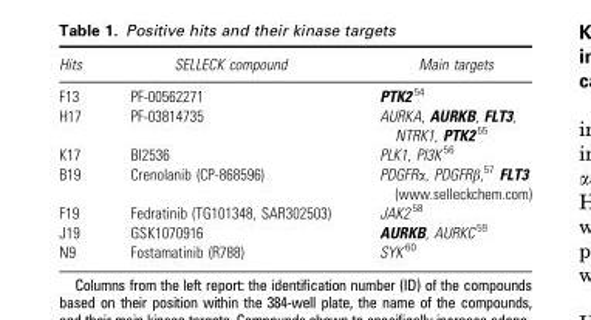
<table><thead><tr><td>Hits</td><td>SELLECK compound</td><td>Main targets</td></tr></thead><tbody><tr><td>F13</td><td>PF-00562271</td><td>PTK2 <sup>54</sup></td></tr><tr><td>H17</td><td>PF-03814735</td><td>AURKA, AURKB, FLT3, NTRK1, PTK2 <sup>55</sup></td></tr><tr><td>K17</td><td>BI2536</td><td>PLK1, PI3K <sup>56</sup></td></tr><tr><td>B19</td><td>Crenolanib (CP-868596)</td><td>PDGFRα, PDGFRβ,<sup>57</sup> FLT3 (www.selleckchem.com)</td></tr><tr><td>F19</td><td>Fedratinib (TG101348, SAR302503)</td><td>JAK2 <sup>58</sup></td></tr><tr><td>J19</td><td>GSK1070916</td><td>AURKB, AURKC <sup>59</sup></td></tr><tr><td>N9</td><td>Fostamatinib (R788)</td><td>SYK <sup>60</sup></td></tr></tbody></table>